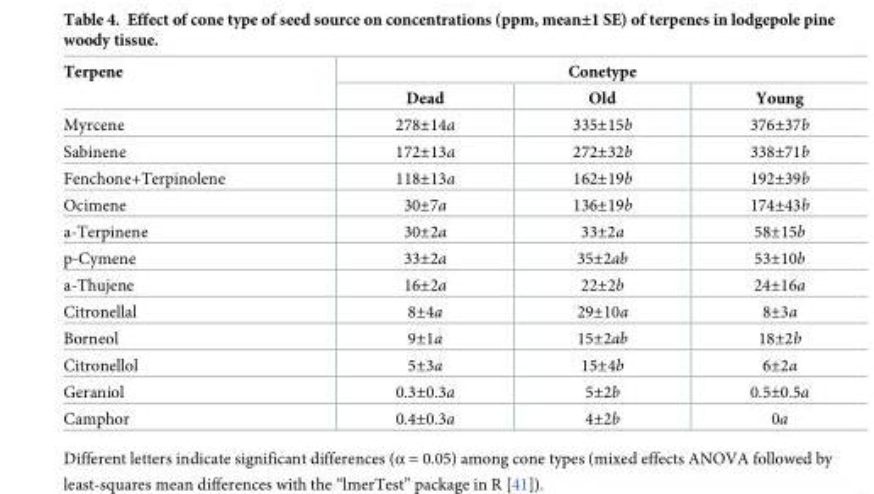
<table><thead><tr><td rowspan="2">Terpene</td><td colspan="3">Conetype</td></tr><tr><td>Dead</td><td>Old</td><td>Young</td></tr></thead><tbody><tr><td>Myrcene</td><td>278±14a</td><td>335±15b</td><td>376±37b</td></tr><tr><td>Sabinene</td><td>172±13a</td><td>272±32b</td><td>338±71b</td></tr><tr><td>Fenchone+Terpinolene</td><td>118±13a</td><td>162±19b</td><td>192±39b</td></tr><tr><td>Ocimene</td><td>30±7a</td><td>136±19b</td><td>174±43b</td></tr><tr><td>a-Terpinene</td><td>30±2a</td><td>33±2a</td><td>58±15b</td></tr><tr><td>p-Cymene</td><td>33±2a</td><td>35±2ab</td><td>53±10b</td></tr><tr><td>a-Thujene</td><td>16±2a</td><td>22±2b</td><td>24±16a</td></tr><tr><td>Citronellal</td><td>8±4a</td><td>29±10a</td><td>8±3a</td></tr><tr><td>Borneol</td><td>9±1a</td><td>15±2ab</td><td>18±2b</td></tr><tr><td>Citronellol</td><td>5±3a</td><td>15±4b</td><td>6±2a</td></tr><tr><td>Geraniol</td><td>0.3±0.3a</td><td>5±2b</td><td>0.5±0.5a</td></tr><tr><td>Camphor</td><td>0.4±0.3a</td><td>4±2b</td><td>0a</td></tr></tbody></table>